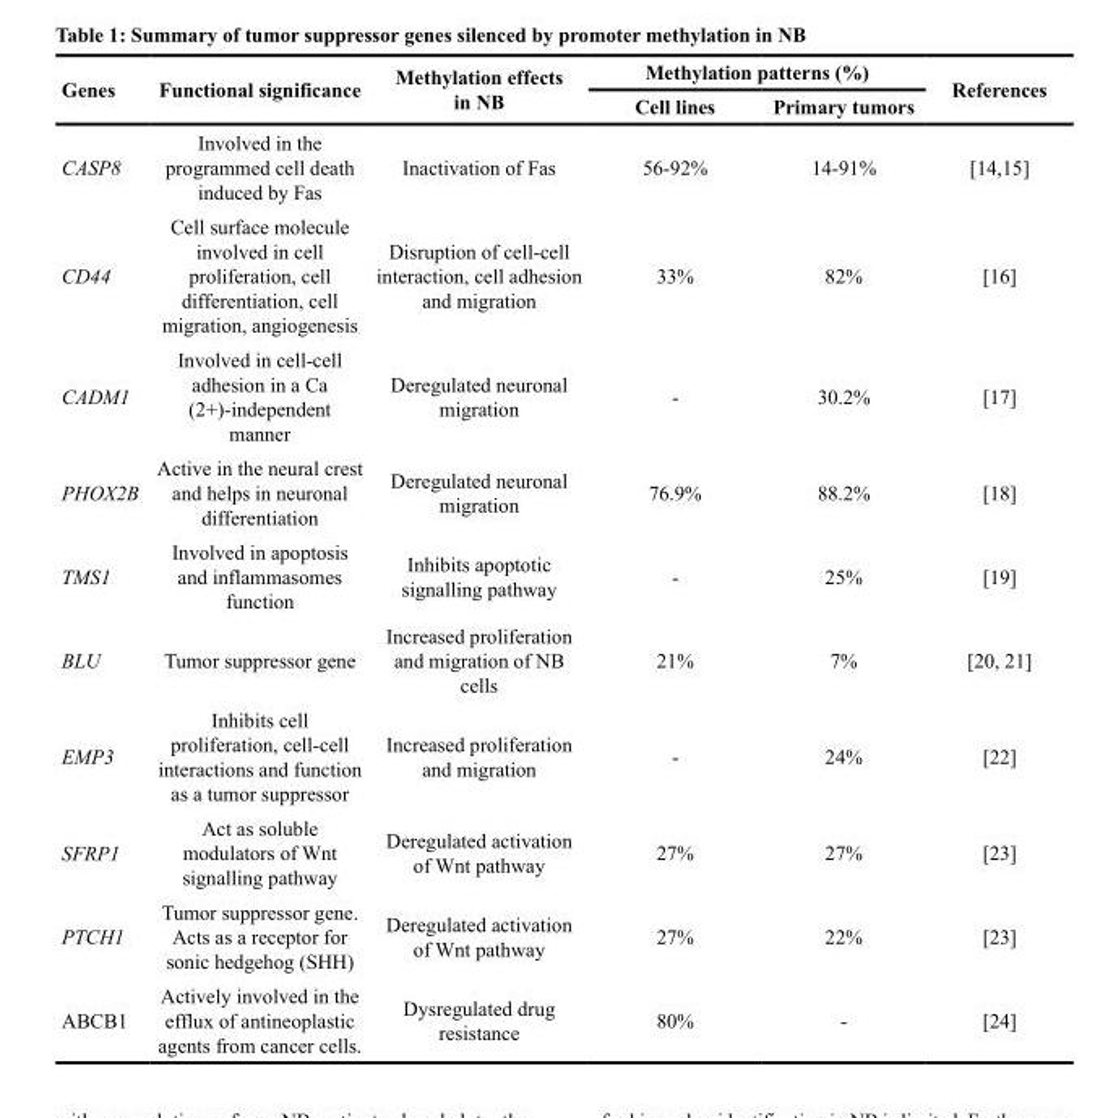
<table><thead><tr><td rowspan="2">Genes</td><td rowspan="2">Functional significance</td><td rowspan="2">Methylation effects in NB</td><td colspan="2">Methylation patterns (%)</td><td rowspan="2">References</td></tr><tr><td>Cell lines</td><td>Primary tumors</td></tr></thead><tbody><tr><td>CASP8</td><td>Involved in the programmed cell death induced by Fas</td><td>Inactivation of Fas</td><td>56-92%</td><td>14-91%</td><td>[14,15]</td></tr><tr><td>CD44</td><td>Cell surface molecule involved in cell proliferation, cell differentiation, cell migration, angiogenesis</td><td>Disruption of cell-cell interaction, cell adhesion and migration</td><td>33%</td><td>82%</td><td>[16]</td></tr><tr><td>CADM1</td><td>Involved in cell-cell adhesion in a Ca (2+)-independent manner</td><td>Deregulated neuronal migration</td><td>-</td><td>30.2%</td><td>[17]</td></tr><tr><td>PHOX2B</td><td>Active in the neural crest and helps in neuronal differentiation</td><td>Deregulated neuronal migration</td><td>76.9%</td><td>88.2%</td><td>[18]</td></tr><tr><td>TMS1</td><td>Involved in apoptosis and inflammasomes function</td><td>Inhibits apoptotic signalling pathway</td><td>-</td><td>25%</td><td>[19]</td></tr><tr><td>BLU</td><td>Tumor suppressor gene</td><td>Increased proliferation and migration of NB cells</td><td>21%</td><td>7%</td><td>[20, 21]</td></tr><tr><td>EMP3</td><td>Inhibits cell proliferation, cell-cell interactions and function as a tumor suppressor</td><td>Increased proliferation and migration</td><td>-</td><td>24%</td><td>[22]</td></tr><tr><td>SFRP1</td><td>Act as soluble modulators of Wnt signalling pathway</td><td>Deregulated activation of Wnt pathway</td><td>27%</td><td>27%</td><td>[23]</td></tr><tr><td>PTCH1</td><td>Tumor suppressor gene. Acts as a receptor for sonic hedgehog (SHH)</td><td>Deregulated activation of Wnt pathway</td><td>27%</td><td>22%</td><td>[23]</td></tr><tr><td>ABCB1</td><td>Actively involved in the efflux of antineoplastic agents from cancer cells.</td><td>Dysregulated drug resistance</td><td>80%</td><td>-</td><td>[24]</td></tr></tbody></table>